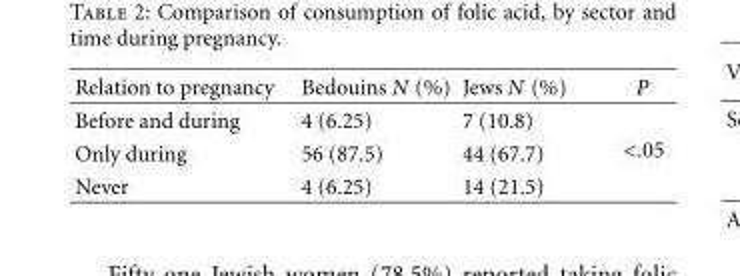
<table><thead><tr><td>Relation to pregnancy</td><td>Bedouins N (%)</td><td>Jews N (%)</td><td>P</td></tr></thead><tbody><tr><td>Before and during</td><td>4 (6.25)</td><td>7 (10.8)</td><td rowspan="3">&lt;.05</td></tr><tr><td>Only during</td><td>56 (87.5)</td><td>44 (67.7)</td></tr><tr><td>Never</td><td>4 (6.25)</td><td>14 (21.5)</td></tr></tbody></table>